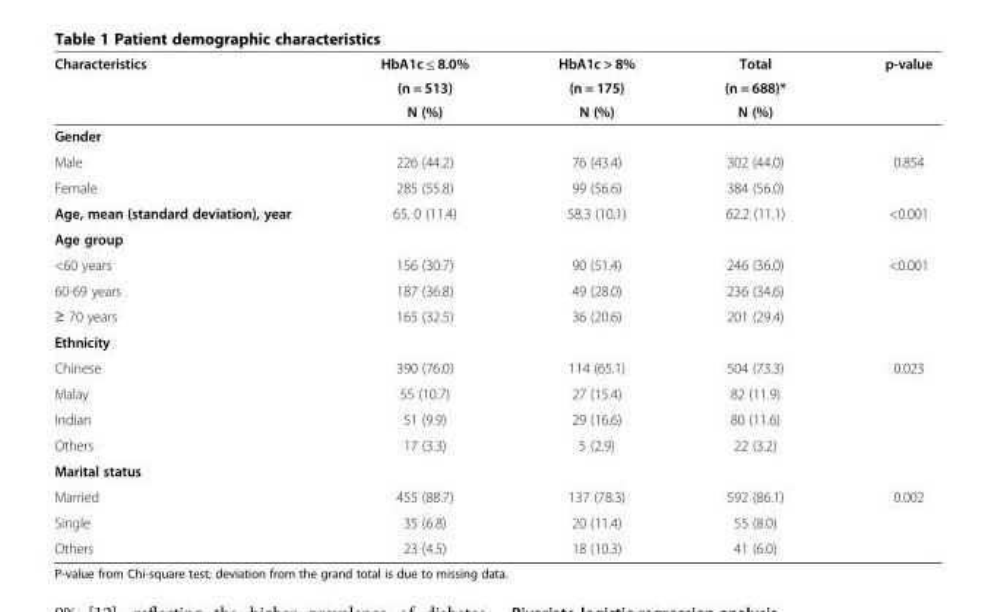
<table><thead><tr><td rowspan="3">Characteristics</td><td rowspan="3">HbA1c ≤ 8.0% (n = 513) N (%)</td><td rowspan="3">HbA1c &gt; 8% (n = 175) N (%)</td><td rowspan="3">Total (n = 688)* N (%)</td><td rowspan="3">p-value</td></tr><tr></tr><tr></tr></thead><tbody><tr><td colspan="5">Gender</td></tr><tr><td>Male</td><td>226 (44.2)</td><td>76 (43.4)</td><td>302 (44.0)</td><td>0.854</td></tr><tr><td>Female</td><td>285 (55.8)</td><td>99 (56.6)</td><td>384 (56.0)</td><td></td></tr><tr><td>Age, mean (standard deviation), year</td><td>65. 0 (11.4)</td><td>58.3 (10.1)</td><td>62.2 (11.1)</td><td>&lt;0.001</td></tr><tr><td colspan="5">Age group</td></tr><tr><td>&lt;60 years</td><td>156 (30.7)</td><td>90 (51.4)</td><td>246 (36.0)</td><td>&lt;0.001</td></tr><tr><td>60-69 years</td><td>187 (36.8)</td><td>49 (28.0)</td><td>236 (34.6)</td><td></td></tr><tr><td>≥ 70 years</td><td>165 (32.5)</td><td>36 (20.6)</td><td>201 (29.4)</td><td></td></tr><tr><td colspan="5">Ethnicity</td></tr><tr><td>Chinese</td><td>390 (76.0)</td><td>114 (65.1)</td><td>504 (73.3)</td><td>0.023</td></tr><tr><td>Malay</td><td>55 (10.7)</td><td>27 (15.4)</td><td>82 (11.9)</td><td></td></tr><tr><td>Indian</td><td>51 (9.9)</td><td>29 (16.6)</td><td>80 (11.6)</td><td></td></tr><tr><td>Others</td><td>17 (3.3)</td><td>5 (2.9)</td><td>22 (3.2)</td><td></td></tr><tr><td colspan="5">Marital status</td></tr><tr><td>Married</td><td>455 (88.7)</td><td>137 (78.3)</td><td>592 (86.1)</td><td>0.002</td></tr><tr><td>Single</td><td>35 (6.8)</td><td>20 (11.4)</td><td>55 (8.0)</td><td></td></tr><tr><td>Others</td><td>23 (4.5)</td><td>18 (10.3)</td><td>41 (6.0)</td><td></td></tr></tbody></table>